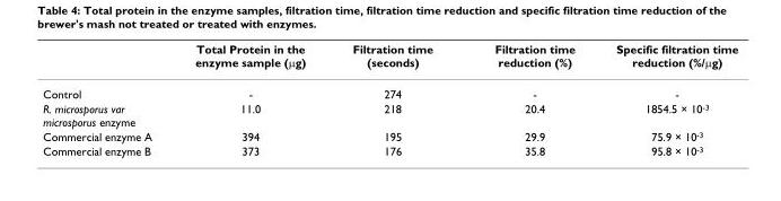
<table><thead><tr><td></td><td>Total Protein in the enzyme sample (µg)</td><td>Filtration time (seconds)</td><td>Filtration time reduction (%)</td><td>Specific filtration time reduction (%/µg)</td></tr></thead><tbody><tr><td>Control</td><td>-</td><td>274</td><td>-</td><td>-</td></tr><tr><td>R. microsporus var microsporus enzyme</td><td>11.0</td><td>218</td><td>20.4</td><td>1854.5 × 10<sup>-3</sup></td></tr><tr><td>Commercial enzyme A</td><td>394</td><td>195</td><td>29.9</td><td>75.9 × 10<sup>-3</sup></td></tr><tr><td>Commercial enzyme B</td><td>373</td><td>176</td><td>35.8</td><td>95.8 × 10<sup>-3</sup></td></tr></tbody></table>